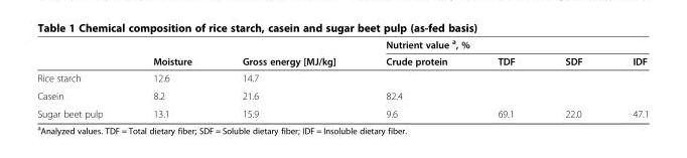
<table><thead><tr><td rowspan="2"></td><td rowspan="2">Moisture</td><td rowspan="2">Gross energy [MJ/kg]</td><td colspan="4">Nutrient value <sup>a</sup>, %</td></tr><tr><td>Crude protein</td><td>TDF</td><td>SDF</td><td>IDF</td></tr></thead><tbody><tr><td>Rice starch</td><td>12.6</td><td>14.7</td><td></td><td></td><td></td><td></td></tr><tr><td>Casein</td><td>8.2</td><td>21.6</td><td>82.4</td><td></td><td></td><td></td></tr><tr><td>Sugar beet pulp</td><td>13.1</td><td>15.9</td><td>9.6</td><td>69.1</td><td>22.0</td><td>47.1</td></tr></tbody></table>